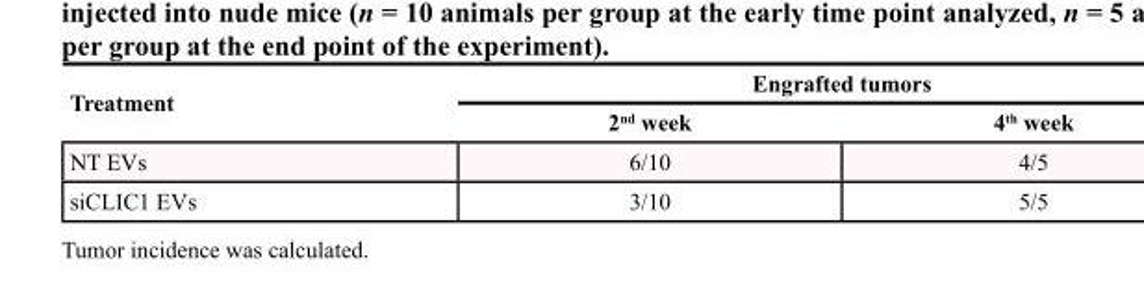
<table><thead><tr><td rowspan="2">Treatment</td><td colspan="2">Engrafted tumors</td></tr><tr><td>2<sup>nd</sup> week</td><td>4<sup>th</sup> week</td></tr></thead><tbody><tr><td>NT EVs</td><td>6/10</td><td>4/5</td></tr><tr><td>siCLIC1 EVs</td><td>3/10</td><td>5/5</td></tr></tbody></table>